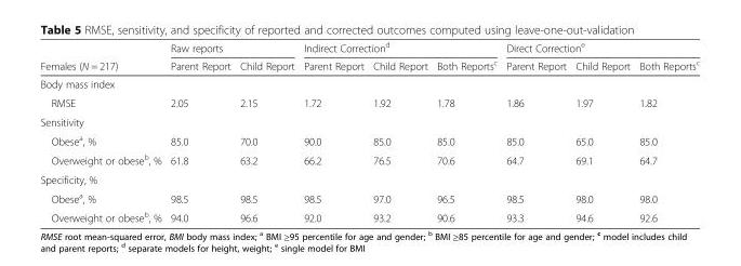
<table><thead><tr><td rowspan="2">Females (N = 217)</td><td colspan="2">Raw reports</td><td colspan="3">Indirect Correction<sup>d</sup></td><td colspan="3">Direct Correction<sup>e</sup></td></tr><tr><td>Parent Report</td><td>Child Report</td><td>Parent Report</td><td>Child Report</td><td>Both Reports<sup>c</sup></td><td>Parent Report</td><td>Child Report</td><td>Both Reports<sup>c</sup></td></tr></thead><tbody><tr><td colspan="9">Body mass index</td></tr><tr><td>RMSE</td><td>2.05</td><td>2.15</td><td>1.72</td><td>1.92</td><td>1.78</td><td>1.86</td><td>1.97</td><td>1.82</td></tr><tr><td colspan="9">Sensitivity</td></tr><tr><td>Obese<sup>a</sup>, %</td><td>85.0</td><td>70.0</td><td>90.0</td><td>85.0</td><td>85.0</td><td>85.0</td><td>65.0</td><td>85.0</td></tr><tr><td>Overweight or obese<sup>b</sup>, %</td><td>61.8</td><td>63.2</td><td>66.2</td><td>76.5</td><td>70.6</td><td>64.7</td><td>69.1</td><td>64.7</td></tr><tr><td colspan="9">Specificity, %</td></tr><tr><td>Obese<sup>a</sup>, %</td><td>98.5</td><td>98.5</td><td>98.5</td><td>97.0</td><td>96.5</td><td>98.5</td><td>98.0</td><td>98.0</td></tr><tr><td>Overweight or obese<sup>b</sup>, %</td><td>94.0</td><td>96.6</td><td>92.0</td><td>93.2</td><td>90.6</td><td>93.3</td><td>94.6</td><td>92.6</td></tr></tbody></table>